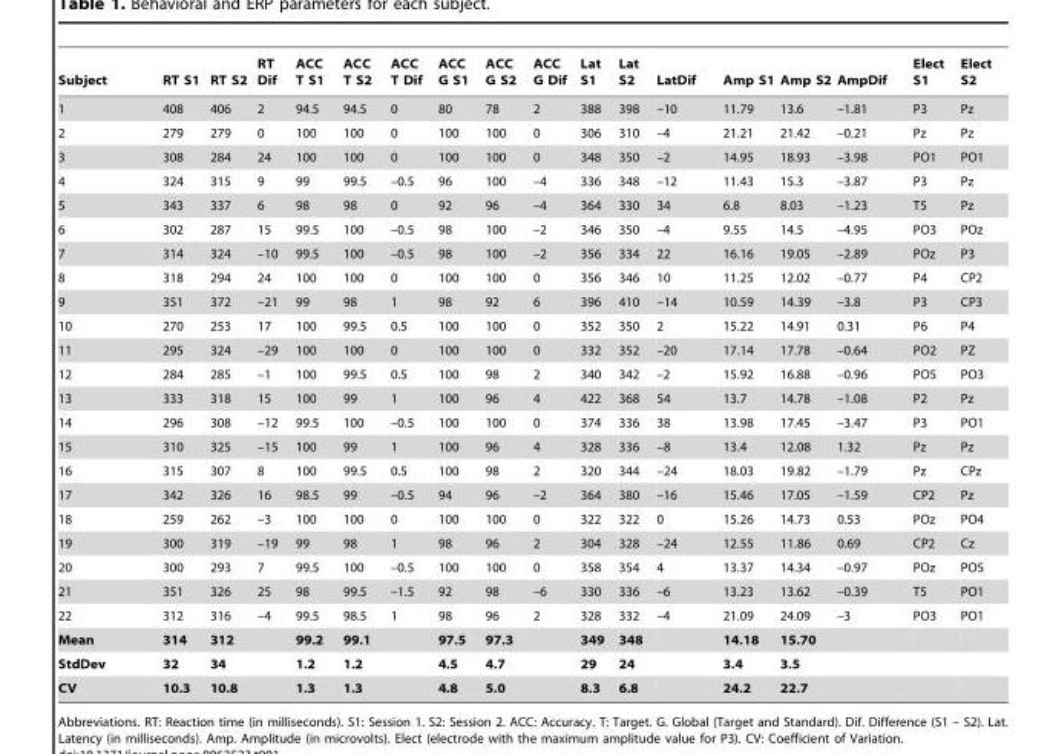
<table><thead><tr><td>Subject</td><td>RT S1</td><td>RT S2</td><td>RT Dif</td><td>ACC T S1</td><td>ACC T S2</td><td>ACC T Dif</td><td>ACC G S1</td><td>ACC G S2</td><td>ACC G Dif</td><td>Lat S1</td><td>Lat S2</td><td>LatDif</td><td>Amp S1</td><td>Amp S2</td><td>AmpDif</td><td>Elect S1</td><td>Elect S2</td></tr></thead><tbody><tr><td>1</td><td>408</td><td>406</td><td>2</td><td>94.5</td><td>94.5</td><td>0</td><td>80</td><td>78</td><td>2</td><td>388</td><td>398</td><td>–10</td><td>11.79</td><td>13.6</td><td>–1.81</td><td>P3</td><td>Pz</td></tr><tr><td>2</td><td>279</td><td>279</td><td>0</td><td>100</td><td>100</td><td>0</td><td>100</td><td>100</td><td>0</td><td>306</td><td>310</td><td>–4</td><td>21.21</td><td>21.42</td><td>–0.21</td><td>Pz</td><td>Pz</td></tr><tr><td>3</td><td>308</td><td>284</td><td>24</td><td>100</td><td>100</td><td>0</td><td>100</td><td>100</td><td>0</td><td>348</td><td>350</td><td>–2</td><td>14.95</td><td>18.93</td><td>–3.98</td><td>PO1</td><td>PO1</td></tr><tr><td>4</td><td>324</td><td>315</td><td>9</td><td>99</td><td>99.5</td><td>–0.5</td><td>96</td><td>100</td><td>–4</td><td>336</td><td>348</td><td>–12</td><td>11.43</td><td>15.3</td><td>–3.87</td><td>P3</td><td>Pz</td></tr><tr><td>5</td><td>343</td><td>337</td><td>6</td><td>98</td><td>98</td><td>0</td><td>92</td><td>96</td><td>–4</td><td>364</td><td>330</td><td>34</td><td>6.8</td><td>8.03</td><td>–1.23</td><td>T5</td><td>Pz</td></tr><tr><td>6</td><td>302</td><td>287</td><td>15</td><td>99.5</td><td>100</td><td>–0.5</td><td>98</td><td>100</td><td>–2</td><td>346</td><td>350</td><td>–4</td><td>9.55</td><td>14.5</td><td>–4.95</td><td>PO3</td><td>POz</td></tr><tr><td>7</td><td>314</td><td>324</td><td>–10</td><td>99.5</td><td>100</td><td>–0.5</td><td>98</td><td>100</td><td>–2</td><td>356</td><td>334</td><td>22</td><td>16.16</td><td>19.05</td><td>–2.89</td><td>POz</td><td>P3</td></tr><tr><td>8</td><td>318</td><td>294</td><td>24</td><td>100</td><td>100</td><td>0</td><td>100</td><td>100</td><td>0</td><td>356</td><td>346</td><td>10</td><td>11.25</td><td>12.02</td><td>–0.77</td><td>P4</td><td>CP2</td></tr><tr><td>9</td><td>351</td><td>372</td><td>–21</td><td>99</td><td>98</td><td>1</td><td>98</td><td>92</td><td>6</td><td>396</td><td>410</td><td>–14</td><td>10.59</td><td>14.39</td><td>–3.8</td><td>P3</td><td>CP3</td></tr><tr><td>10</td><td>270</td><td>253</td><td>17</td><td>100</td><td>99.5</td><td>0.5</td><td>100</td><td>100</td><td>0</td><td>352</td><td>350</td><td>2</td><td>15.22</td><td>14.91</td><td>0.31</td><td>P6</td><td>P4</td></tr><tr><td>11</td><td>295</td><td>324</td><td>–29</td><td>100</td><td>100</td><td>0</td><td>100</td><td>100</td><td>0</td><td>332</td><td>352</td><td>–20</td><td>17.14</td><td>17.78</td><td>–0.64</td><td>PO2</td><td>PZ</td></tr><tr><td>12</td><td>284</td><td>285</td><td>–1</td><td>100</td><td>99.5</td><td>0.5</td><td>100</td><td>98</td><td>2</td><td>340</td><td>342</td><td>–2</td><td>15.92</td><td>16.88</td><td>–0.96</td><td>PO5</td><td>PO3</td></tr><tr><td>13</td><td>333</td><td>318</td><td>15</td><td>100</td><td>99</td><td>1</td><td>100</td><td>96</td><td>4</td><td>422</td><td>368</td><td>54</td><td>13.7</td><td>14.78</td><td>–1.08</td><td>P2</td><td>Pz</td></tr><tr><td>14</td><td>296</td><td>308</td><td>–12</td><td>99.5</td><td>100</td><td>–0.5</td><td>100</td><td>100</td><td>0</td><td>374</td><td>336</td><td>38</td><td>13.98</td><td>17.45</td><td>–3.47</td><td>P3</td><td>PO1</td></tr><tr><td>15</td><td>310</td><td>325</td><td>–15</td><td>100</td><td>99</td><td>1</td><td>100</td><td>96</td><td>4</td><td>328</td><td>336</td><td>–8</td><td>13.4</td><td>12.08</td><td>1.32</td><td>Pz</td><td>Pz</td></tr><tr><td>16</td><td>315</td><td>307</td><td>8</td><td>100</td><td>99.5</td><td>0.5</td><td>100</td><td>98</td><td>2</td><td>320</td><td>344</td><td>–24</td><td>18.03</td><td>19.82</td><td>–1.79</td><td>Pz</td><td>CPz</td></tr><tr><td>17</td><td>342</td><td>326</td><td>16</td><td>98.5</td><td>99</td><td>–0.5</td><td>94</td><td>96</td><td>–2</td><td>364</td><td>380</td><td>–16</td><td>15.46</td><td>17.05</td><td>–1.59</td><td>CP2</td><td>Pz</td></tr><tr><td>18</td><td>259</td><td>262</td><td>–3</td><td>100</td><td>100</td><td>0</td><td>100</td><td>100</td><td>0</td><td>322</td><td>322</td><td>0</td><td>15.26</td><td>14.73</td><td>0.53</td><td>POz</td><td>PO4</td></tr><tr><td>19</td><td>300</td><td>319</td><td>–19</td><td>99</td><td>98</td><td>1</td><td>98</td><td>96</td><td>2</td><td>304</td><td>328</td><td>–24</td><td>12.55</td><td>11.86</td><td>0.69</td><td>CP2</td><td>Cz</td></tr><tr><td>20</td><td>300</td><td>293</td><td>7</td><td>99.5</td><td>100</td><td>–0.5</td><td>100</td><td>100</td><td>0</td><td>358</td><td>354</td><td>4</td><td>13.37</td><td>14.34</td><td>–0.97</td><td>POz</td><td>PO5</td></tr><tr><td>21</td><td>351</td><td>326</td><td>25</td><td>98</td><td>99.5</td><td>–1.5</td><td>92</td><td>98</td><td>–6</td><td>330</td><td>336</td><td>–6</td><td>13.23</td><td>13.62</td><td>–0.39</td><td>T5</td><td>PO1</td></tr><tr><td>22</td><td>312</td><td>316</td><td>–4</td><td>99.5</td><td>98.5</td><td>1</td><td>98</td><td>96</td><td>2</td><td>328</td><td>332</td><td>–4</td><td>21.09</td><td>24.09</td><td>–3</td><td>PO3</td><td>PO1</td></tr><tr><td>Mean</td><td>314</td><td>312</td><td></td><td>99.2</td><td>99.1</td><td></td><td>97.5</td><td>97.3</td><td></td><td>349</td><td>348</td><td></td><td>14.18</td><td>15.70</td><td></td><td></td><td></td></tr><tr><td>StdDev</td><td>32</td><td>34</td><td></td><td>1.2</td><td>1.2</td><td></td><td>4.5</td><td>4.7</td><td></td><td>29</td><td>24</td><td></td><td>3.4</td><td>3.5</td><td></td><td></td><td></td></tr><tr><td>CV</td><td>10.3</td><td>10.8</td><td></td><td>1.3</td><td>1.3</td><td></td><td>4.8</td><td>5.0</td><td></td><td>8.3</td><td>6.8</td><td></td><td>24.2</td><td>22.7</td><td></td><td></td><td></td></tr></tbody></table>